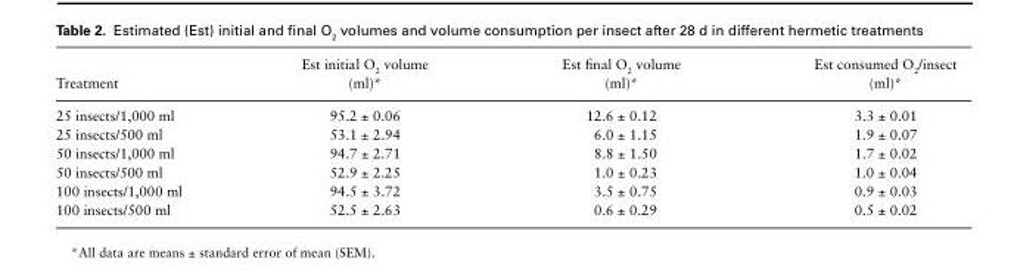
<table><thead><tr><td>Treatment</td><td>Est initial O<sub>2</sub> volume (ml)*</td><td>Est final O<sub>2</sub> volume (ml)*</td><td>Est consumed O<sub>2</sub>/insect (ml)*</td></tr></thead><tbody><tr><td>25 insects/1,000 ml</td><td>95.2 ± 0.06</td><td>12.6 ± 0.12</td><td>3.3 ± 0.01</td></tr><tr><td>25 insects/500 ml</td><td>53.1 ± 2.94</td><td>6.0 ± 1.15</td><td>1.9 ± 0.07</td></tr><tr><td>50 insects/1,000 ml</td><td>94.7 ± 2.71</td><td>8.8 ± 1.50</td><td>1.7 ± 0.02</td></tr><tr><td>50 insects/500 ml</td><td>52.9 ± 2.25</td><td>1.0 ± 0.23</td><td>1.0 ± 0.04</td></tr><tr><td>100 insects/1,000 ml</td><td>94.5 ± 3.72</td><td>3.5 ± 0.75</td><td>0.9 ± 0.03</td></tr><tr><td>100 insects/500 ml</td><td>52.5 ± 2.63</td><td>0.6 ± 0.29</td><td>0.5 ± 0.02</td></tr></tbody></table>